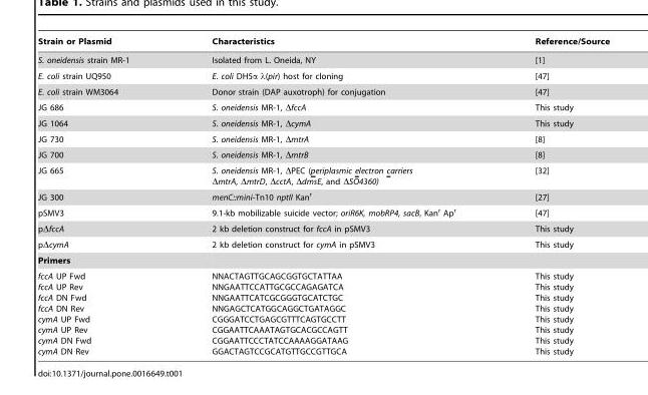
<table><thead><tr><td>Strain or Plasmid</td><td>Characteristics</td><td>Reference/Source</td></tr></thead><tbody><tr><td>S. oneidensis strain MR-1</td><td>Isolated from L. Oneida, NY</td><td>[1]</td></tr><tr><td>E. coli strain UQ950</td><td>E. coli DH5α λ(pir) host for cloning</td><td>[47]</td></tr><tr><td>E. coli strain WM3064</td><td>Donor strain (DAP auxotroph) for conjugation</td><td>[47]</td></tr><tr><td>JG 686</td><td>S. oneidensis MR-1, ΔfccA</td><td>This study</td></tr><tr><td>JG 1064</td><td>S. oneidensis MR-1, ΔcymA</td><td>This study</td></tr><tr><td>JG 730</td><td>S. oneidensis MR-1, ΔmtrA</td><td>[8]</td></tr><tr><td>JG 700</td><td>S. oneidensis MR-1, ΔmtrB</td><td>[8]</td></tr><tr><td>JG 665</td><td>S. oneidensis MR-1, ΔPEC (periplasmic electron carriers ΔmtrA, ΔmtrD, ΔcctA, ΔdmsE, and ΔSO4360)</td><td>[32]</td></tr><tr><td>JG 300</td><td>menC::mini-Tn10 nptII Kan<sup>r</sup></td><td>[27]</td></tr><tr><td>pSMV3</td><td>9.1-kb mobilizable suicide vector; oriR6K, mobRP4, sacB, Kan<sup>r</sup> Ap<sup>r</sup></td><td>[47]</td></tr><tr><td>pΔfccA</td><td>2 kb deletion construct for fccA in pSMV3</td><td>This study</td></tr><tr><td>pΔcymA</td><td>2 kb deletion construct for cymA in pSMV3</td><td>This study</td></tr><tr><td colspan="3">Primers</td></tr><tr><td>fccA UP Fwd fccA UP Rev fccA DN Fwd fccA DN Rev cymA UP Fwd cymA UP Rev cymA DN Fwd cymA DN Rev</td><td>NNACTAGTTGCAGCGGTGCTATTAA NNGAATTCCATTGCGCCAGAGATCA NNGAATTCATCGCGGGTGCATCTGC NNGAGCTCATGGCAGGCTGATAGGC CGGGATCCTGAGCGTTTCAGTGCCTT CGGAATTCAAATAGTGCACGCCAGTT CGGAATTCCCTATCCAAAAGGATAAG GGACTAGTCCGCATGTTGCCGTTGCA</td><td>This study This study This study This study This study This study This study This study</td></tr></tbody></table>